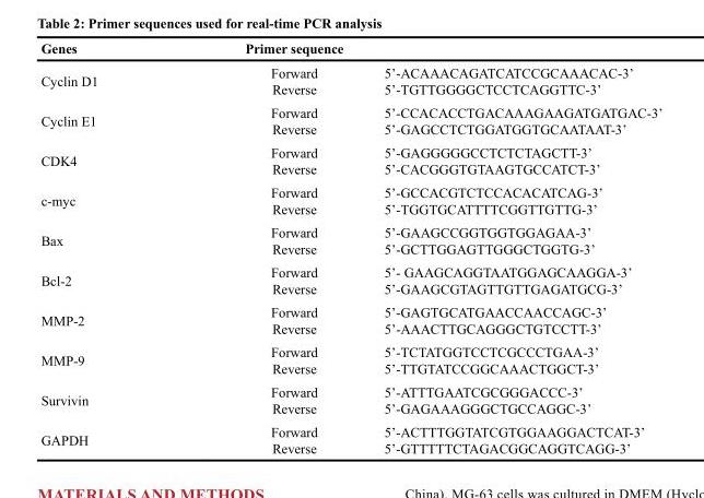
<table><thead><tr><td>Genes</td><td>Primer sequence</td><td></td></tr></thead><tbody><tr><td>Cyclin D1</td><td>Forward Reverse</td><td>5’-ACAAACAGATCATCCGCAAACAC-3’ 5’-TGTTGGGGCTCCTCAGGTTC-3’</td></tr><tr><td>Cyclin E1</td><td>Forward Reverse</td><td>5’-CCACACCTGACAAAGAAGATGATGAC-3’ 5’-GAGCCTCTGGATGGTGCAATAAT-3’</td></tr><tr><td>CDK4</td><td>Forward Reverse</td><td>5’-GAGGGGGCCTCTCTAGCTT-3’ 5’-CACGGGTGTAAGTGCCATCT-3’</td></tr><tr><td>c-myc</td><td>Forward Reverse</td><td>5’-GCCACGTCTCCACACATCAG-3’ 5’-TGGTGCATTTTCGGTTGTTG-3’</td></tr><tr><td>Bax</td><td>Forward Reverse</td><td>5’-GAAGCCGGTGGTGGAGAA-3’ 5’-GCTTGGAGTTGGGCTGGTG-3’</td></tr><tr><td>Bcl-2</td><td>Forward Reverse</td><td>5’- GAAGCAGGTAATGGAGCAAGGA-3’ 5’-GAAGCGTAGTTGTTGAGATGCG-3’</td></tr><tr><td>MMP-2</td><td>Forward Reverse</td><td>5’-GAGTGCATGAACCAACCAGC-3’ 5’-AAACTTGCAGGGCTGTCCTT-3’</td></tr><tr><td>MMP-9</td><td>Forward Reverse</td><td>5’-TCTATGGTCCTCGCCCTGAA-3’ 5’-TTGTATCCGGCAAACTGGCT-3’</td></tr><tr><td>Survivin</td><td>Forward Reverse</td><td>5’-ATTTGAATCGCGGGACCC-3’ 5’-GAGAAAGGGCTGCCAGGC-3’</td></tr><tr><td>GAPDH</td><td>Forward Reverse</td><td>5’-ACTTTGGTATCGTGGAAGGACTCAT-3’ 5’-GTTTTTCTAGACGGCAGGTCAGG-3’</td></tr></tbody></table>